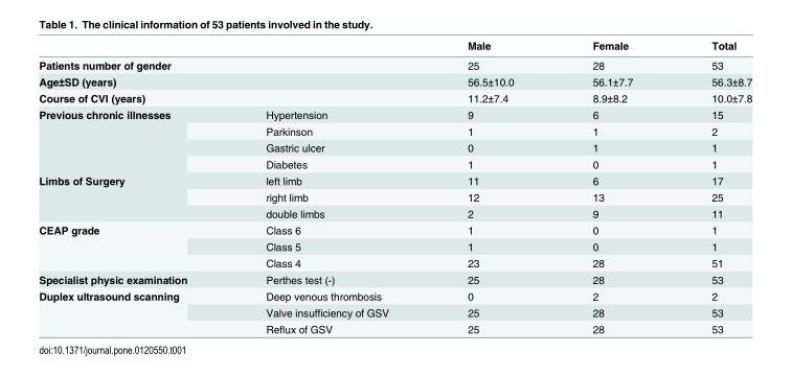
<table><thead><tr><td></td><td></td><td>Male</td><td>Female</td><td>Total</td></tr></thead><tbody><tr><td>Patients number of gender</td><td></td><td>25</td><td>28</td><td>53</td></tr><tr><td>Age±SD (years)</td><td></td><td>56.5±10.0</td><td>56.1±7.7</td><td>56.3±8.7</td></tr><tr><td>Course of CVI (years)</td><td></td><td>11.2±7.4</td><td>8.9±8.2</td><td>10.0±7.8</td></tr><tr><td rowspan="4">Previous chronic illnesses</td><td>Hypertension</td><td>9</td><td>6</td><td>15</td></tr><tr><td>Parkinson</td><td>1</td><td>1</td><td>2</td></tr><tr><td>Gastric ulcer</td><td>0</td><td>1</td><td>1</td></tr><tr><td>Diabetes</td><td>1</td><td>0</td><td>1</td></tr><tr><td rowspan="3">Limbs of Surgery</td><td>left limb</td><td>11</td><td>6</td><td>17</td></tr><tr><td>right limb</td><td>12</td><td>13</td><td>25</td></tr><tr><td>double limbs</td><td>2</td><td>9</td><td>11</td></tr><tr><td rowspan="3">CEAP grade</td><td>Class 6</td><td>1</td><td>0</td><td>1</td></tr><tr><td>Class 5</td><td>1</td><td>0</td><td>1</td></tr><tr><td>Class 4</td><td>23</td><td>28</td><td>51</td></tr><tr><td>Specialist physic examination</td><td>Perthes test (-)</td><td>25</td><td>28</td><td>53</td></tr><tr><td rowspan="3">Duplex ultrasound scanning</td><td>Deep venous thrombosis</td><td>0</td><td>2</td><td>2</td></tr><tr><td>Valve insufficiency of GSV</td><td>25</td><td>28</td><td>53</td></tr><tr><td>Reflux of GSV</td><td>25</td><td>28</td><td>53</td></tr></tbody></table>